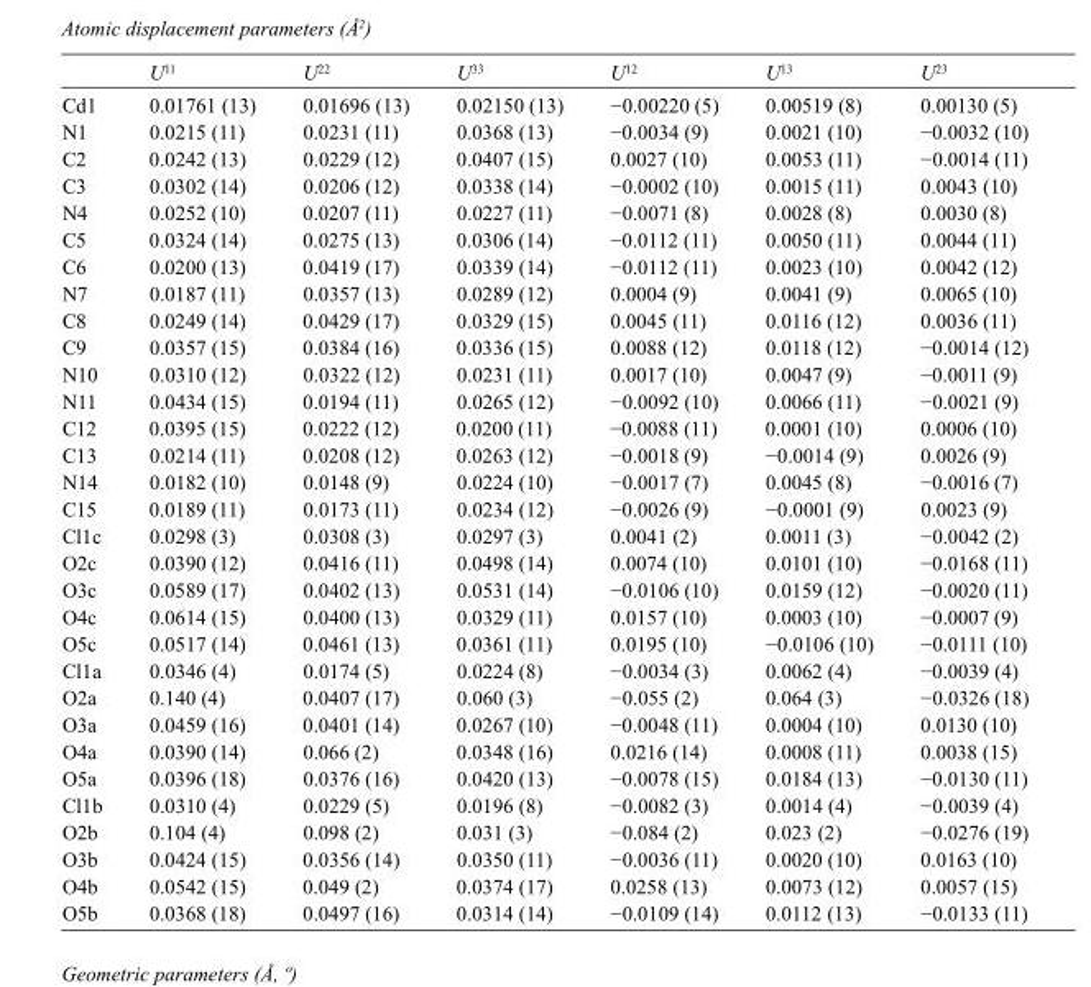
<table><thead><tr><td></td><td>U<sup>11</sup></td><td>U<sup>22</sup></td><td>U<sup>33</sup></td><td>U<sup>12</sup></td><td>U<sup>13</sup></td><td>U<sup>23</sup></td></tr></thead><tbody><tr><td>Cd1</td><td>0.01761 (13)</td><td>0.01696 (13)</td><td>0.02150 (13)</td><td>−0.00220 (5)</td><td>0.00519 (8)</td><td>0.00130 (5)</td></tr><tr><td>N1</td><td>0.0215 (11)</td><td>0.0231 (11)</td><td>0.0368 (13)</td><td>−0.0034 (9)</td><td>0.0021 (10)</td><td>−0.0032 (10)</td></tr><tr><td>C2</td><td>0.0242 (13)</td><td>0.0229 (12)</td><td>0.0407 (15)</td><td>0.0027 (10)</td><td>0.0053 (11)</td><td>−0.0014 (11)</td></tr><tr><td>C3</td><td>0.0302 (14)</td><td>0.0206 (12)</td><td>0.0338 (14)</td><td>−0.0002 (10)</td><td>0.0015 (11)</td><td>0.0043 (10)</td></tr><tr><td>N4</td><td>0.0252 (10)</td><td>0.0207 (11)</td><td>0.0227 (11)</td><td>−0.0071 (8)</td><td>0.0028 (8)</td><td>0.0030 (8)</td></tr><tr><td>C5</td><td>0.0324 (14)</td><td>0.0275 (13)</td><td>0.0306 (14)</td><td>−0.0112 (11)</td><td>0.0050 (11)</td><td>0.0044 (11)</td></tr><tr><td>C6</td><td>0.0200 (13)</td><td>0.0419 (17)</td><td>0.0339 (14)</td><td>−0.0112 (11)</td><td>0.0023 (10)</td><td>0.0042 (12)</td></tr><tr><td>N7</td><td>0.0187 (11)</td><td>0.0357 (13)</td><td>0.0289 (12)</td><td>0.0004 (9)</td><td>0.0041 (9)</td><td>0.0065 (10)</td></tr><tr><td>C8</td><td>0.0249 (14)</td><td>0.0429 (17)</td><td>0.0329 (15)</td><td>0.0045 (11)</td><td>0.0116 (12)</td><td>0.0036 (11)</td></tr><tr><td>C9</td><td>0.0357 (15)</td><td>0.0384 (16)</td><td>0.0336 (15)</td><td>0.0088 (12)</td><td>0.0118 (12)</td><td>−0.0014 (12)</td></tr><tr><td>N10</td><td>0.0310 (12)</td><td>0.0322 (12)</td><td>0.0231 (11)</td><td>0.0017 (10)</td><td>0.0047 (9)</td><td>−0.0011 (9)</td></tr><tr><td>N11</td><td>0.0434 (15)</td><td>0.0194 (11)</td><td>0.0265 (12)</td><td>−0.0092 (10)</td><td>0.0066 (11)</td><td>−0.0021 (9)</td></tr><tr><td>C12</td><td>0.0395 (15)</td><td>0.0222 (12)</td><td>0.0200 (11)</td><td>−0.0088 (11)</td><td>0.0001 (10)</td><td>0.0006 (10)</td></tr><tr><td>C13</td><td>0.0214 (11)</td><td>0.0208 (12)</td><td>0.0263 (12)</td><td>−0.0018 (9)</td><td>−0.0014 (9)</td><td>0.0026 (9)</td></tr><tr><td>N14</td><td>0.0182 (10)</td><td>0.0148 (9)</td><td>0.0224 (10)</td><td>−0.0017 (7)</td><td>0.0045 (8)</td><td>−0.0016 (7)</td></tr><tr><td>C15</td><td>0.0189 (11)</td><td>0.0173 (11)</td><td>0.0234 (12)</td><td>−0.0026 (9)</td><td>−0.0001 (9)</td><td>0.0023 (9)</td></tr><tr><td>Cl1c</td><td>0.0298 (3)</td><td>0.0308 (3)</td><td>0.0297 (3)</td><td>0.0041 (2)</td><td>0.0011 (3)</td><td>−0.0042 (2)</td></tr><tr><td>O2c</td><td>0.0390 (12)</td><td>0.0416 (11)</td><td>0.0498 (14)</td><td>0.0074 (10)</td><td>0.0101 (10)</td><td>−0.0168 (11)</td></tr><tr><td>O3c</td><td>0.0589 (17)</td><td>0.0402 (13)</td><td>0.0531 (14)</td><td>−0.0106 (10)</td><td>0.0159 (12)</td><td>−0.0020 (11)</td></tr><tr><td>O4c</td><td>0.0614 (15)</td><td>0.0400 (13)</td><td>0.0329 (11)</td><td>0.0157 (10)</td><td>0.0003 (10)</td><td>−0.0007 (9)</td></tr><tr><td>O5c</td><td>0.0517 (14)</td><td>0.0461 (13)</td><td>0.0361 (11)</td><td>0.0195 (10)</td><td>−0.0106 (10)</td><td>−0.0111 (10)</td></tr><tr><td>Cl1a</td><td>0.0346 (4)</td><td>0.0174 (5)</td><td>0.0224 (8)</td><td>−0.0034 (3)</td><td>0.0062 (4)</td><td>−0.0039 (4)</td></tr><tr><td>O2a</td><td>0.140 (4)</td><td>0.0407 (17)</td><td>0.060 (3)</td><td>−0.055 (2)</td><td>0.064 (3)</td><td>−0.0326 (18)</td></tr><tr><td>O3a</td><td>0.0459 (16)</td><td>0.0401 (14)</td><td>0.0267 (10)</td><td>−0.0048 (11)</td><td>0.0004 (10)</td><td>0.0130 (10)</td></tr><tr><td>O4a</td><td>0.0390 (14)</td><td>0.066 (2)</td><td>0.0348 (16)</td><td>0.0216 (14)</td><td>0.0008 (11)</td><td>0.0038 (15)</td></tr><tr><td>O5a</td><td>0.0396 (18)</td><td>0.0376 (16)</td><td>0.0420 (13)</td><td>−0.0078 (15)</td><td>0.0184 (13)</td><td>−0.0130 (11)</td></tr><tr><td>Cl1b</td><td>0.0310 (4)</td><td>0.0229 (5)</td><td>0.0196 (8)</td><td>−0.0082 (3)</td><td>0.0014 (4)</td><td>−0.0039 (4)</td></tr><tr><td>O2b</td><td>0.104 (4)</td><td>0.098 (2)</td><td>0.031 (3)</td><td>−0.084 (2)</td><td>0.023 (2)</td><td>−0.0276 (19)</td></tr><tr><td>O3b</td><td>0.0424 (15)</td><td>0.0356 (14)</td><td>0.0350 (11)</td><td>−0.0036 (11)</td><td>0.0020 (10)</td><td>0.0163 (10)</td></tr><tr><td>O4b</td><td>0.0542 (15)</td><td>0.049 (2)</td><td>0.0374 (17)</td><td>0.0258 (13)</td><td>0.0073 (12)</td><td>0.0057 (15)</td></tr><tr><td>O5b</td><td>0.0368 (18)</td><td>0.0497 (16)</td><td>0.0314 (14)</td><td>−0.0109 (14)</td><td>0.0112 (13)</td><td>−0.0133 (11)</td></tr></tbody></table>